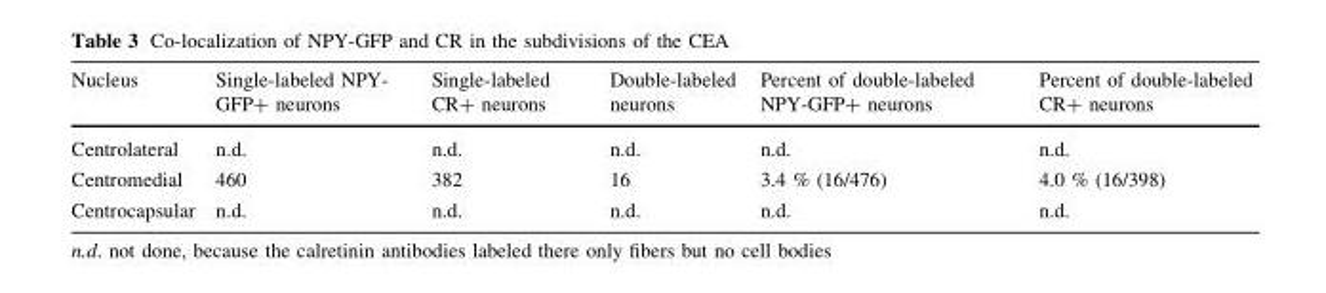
<table><thead><tr><td>Nucleus</td><td>Single-labeled NPY- GFP+ neurons</td><td>Single-labeled CR+ neurons</td><td>Double-labeled neurons</td><td>Percent of double-labeled NPY-GFP+ neurons</td><td>Percent of double-labeled CR+ neurons</td></tr></thead><tbody><tr><td>Centrolateral</td><td>n.d.</td><td>n.d.</td><td>n.d.</td><td>n.d.</td><td>n.d.</td></tr><tr><td>Centromedial</td><td>460</td><td>382</td><td>16</td><td>3.4 % (16/476)</td><td>4.0 % (16/398)</td></tr><tr><td>Centrocapsular</td><td>n.d.</td><td>n.d.</td><td>n.d.</td><td>n.d.</td><td>n.d.</td></tr></tbody></table>